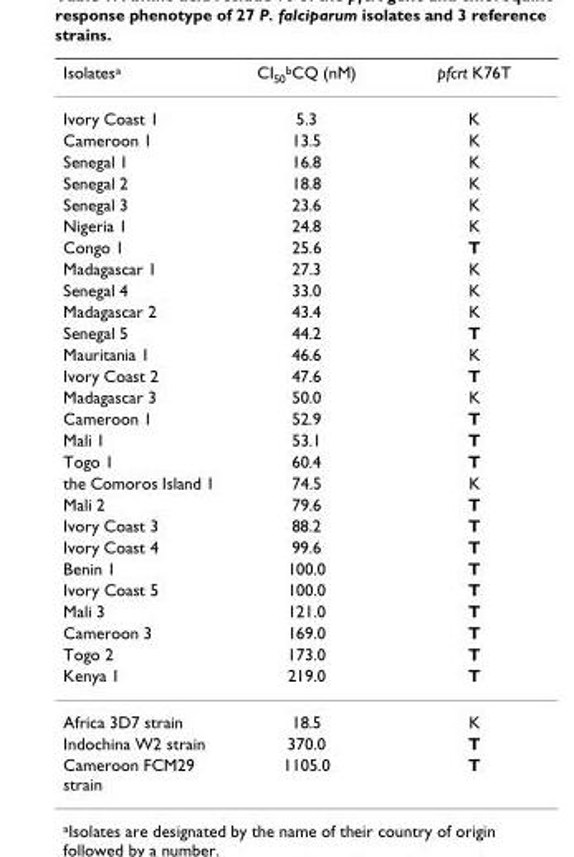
<table><thead><tr><td>Isolates<sup>a</sup></td><td>CI<sub>50</sub><sup>b</sup>CQ (nM)</td><td>pfcrt K76T</td></tr></thead><tbody><tr><td>Ivory Coast 1</td><td>5.3</td><td>K</td></tr><tr><td>Cameroon 1</td><td>13.5</td><td>K</td></tr><tr><td>Senegal 1</td><td>16.8</td><td>K</td></tr><tr><td>Senegal 2</td><td>18.8</td><td>K</td></tr><tr><td>Senegal 3</td><td>23.6</td><td>K</td></tr><tr><td>Nigeria 1</td><td>24.8</td><td>K</td></tr><tr><td>Congo 1</td><td>25.6</td><td>T</td></tr><tr><td>Madagascar 1</td><td>27.3</td><td>K</td></tr><tr><td>Senegal 4</td><td>33.0</td><td>K</td></tr><tr><td>Madagascar 2</td><td>43.4</td><td>K</td></tr><tr><td>Senegal 5</td><td>44.2</td><td>T</td></tr><tr><td>Mauritania 1</td><td>46.6</td><td>K</td></tr><tr><td>Ivory Coast 2</td><td>47.6</td><td>T</td></tr><tr><td>Madagascar 3</td><td>50.0</td><td>K</td></tr><tr><td>Cameroon 1</td><td>52.9</td><td>T</td></tr><tr><td>Mali 1</td><td>53.1</td><td>T</td></tr><tr><td>Togo 1</td><td>60.4</td><td>T</td></tr><tr><td>the Comoros Island 1</td><td>74.5</td><td>K</td></tr><tr><td>Mali 2</td><td>79.6</td><td>T</td></tr><tr><td>Ivory Coast 3</td><td>88.2</td><td>T</td></tr><tr><td>Ivory Coast 4</td><td>99.6</td><td>T</td></tr><tr><td>Benin 1</td><td>100.0</td><td>T</td></tr><tr><td>Ivory Coast 5</td><td>100.0</td><td>T</td></tr><tr><td>Mali 3</td><td>121.0</td><td>T</td></tr><tr><td>Cameroon 3</td><td>169.0</td><td>T</td></tr><tr><td>Togo 2</td><td>173.0</td><td>T</td></tr><tr><td>Kenya 1</td><td>219.0</td><td>T</td></tr><tr><td>Africa 3D7 strain</td><td>18.5</td><td>K</td></tr><tr><td>Indochina W2 strain</td><td>370.0</td><td>T</td></tr><tr><td>Cameroon FCM29 strain</td><td>1105.0</td><td>T</td></tr></tbody></table>